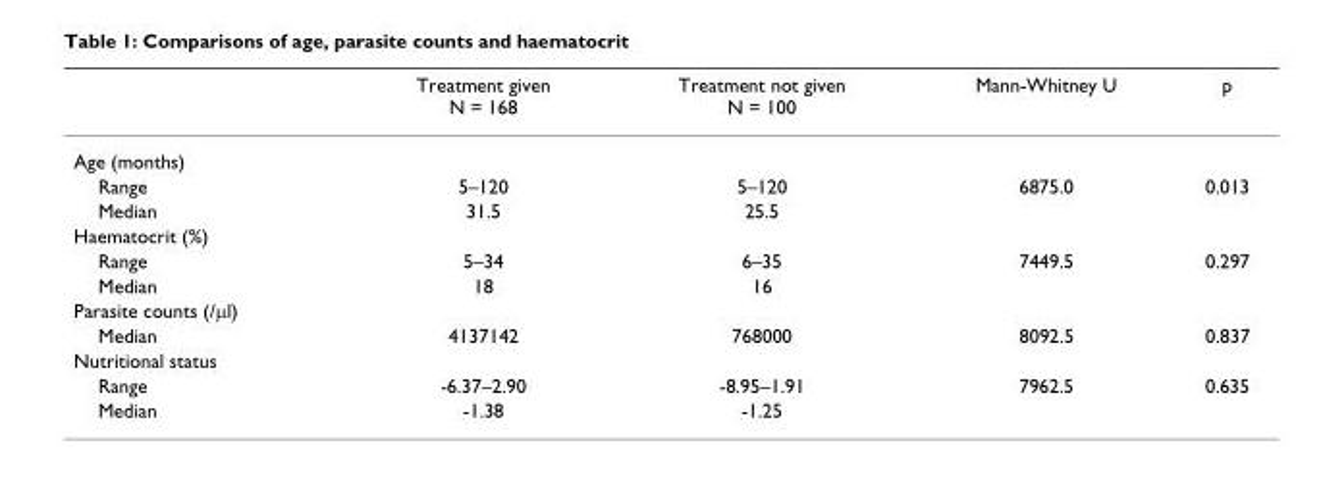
<table><thead><tr><td></td><td>Treatment given N = 168</td><td>Treatment not given N = 100</td><td>Mann-Whitney U</td><td>p</td></tr></thead><tbody><tr><td colspan="5">Age (months)</td></tr><tr><td>Range</td><td>5–120</td><td>5–120</td><td>6875.0</td><td>0.013</td></tr><tr><td>Median</td><td>31.5</td><td>25.5</td><td></td><td></td></tr><tr><td colspan="5">Haematocrit (%)</td></tr><tr><td>Range</td><td>5–34</td><td>6–35</td><td>7449.5</td><td>0.297</td></tr><tr><td>Median</td><td>18</td><td>16</td><td></td><td></td></tr><tr><td colspan="5">Parasite counts (/μl)</td></tr><tr><td>Median</td><td>4137142</td><td>768000</td><td>8092.5</td><td>0.837</td></tr><tr><td colspan="5">Nutritional status</td></tr><tr><td>Range</td><td>-6.37–2.90</td><td>-8.95–1.91</td><td>7962.5</td><td>0.635</td></tr><tr><td>Median</td><td>-1.38</td><td>-1.25</td><td></td><td></td></tr></tbody></table>